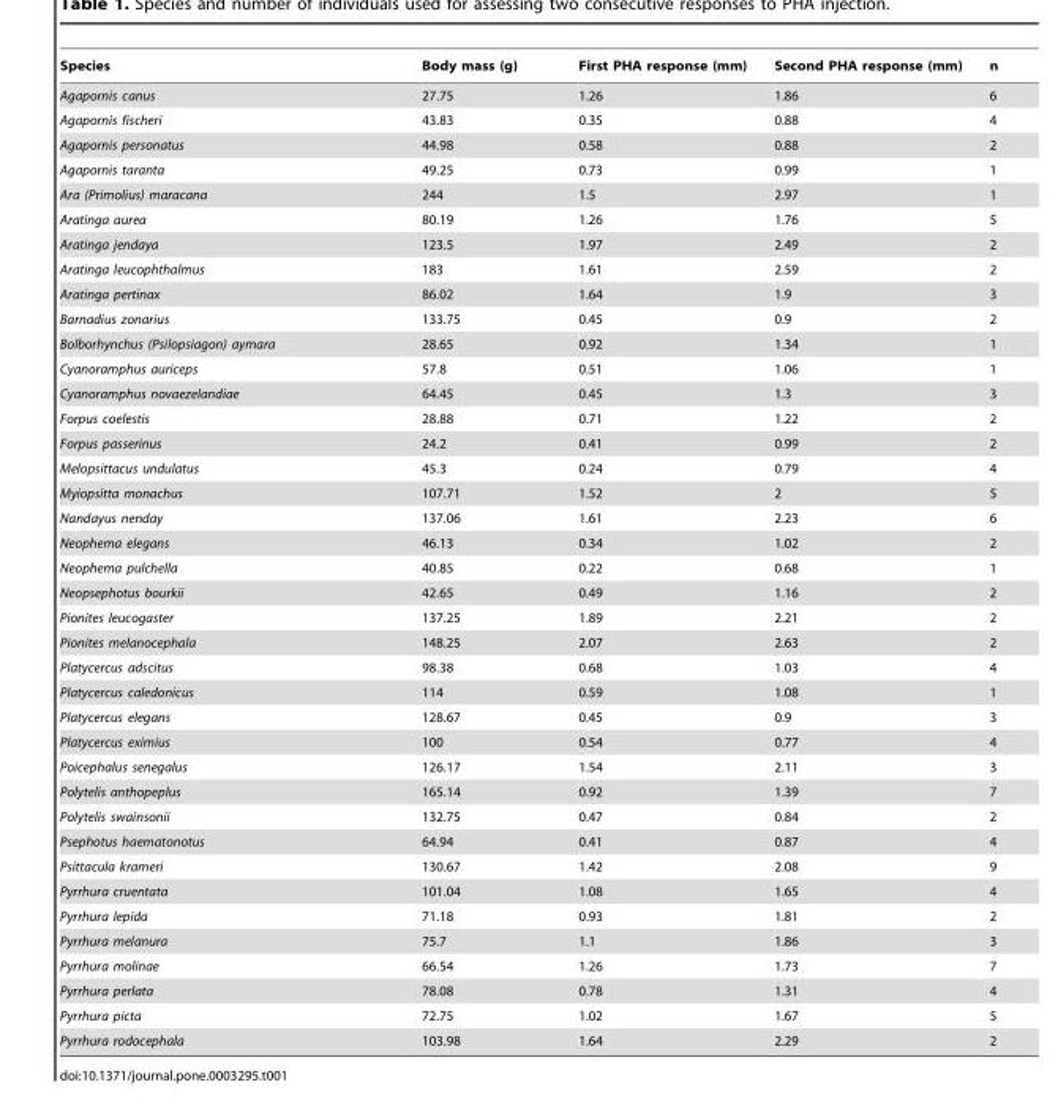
<table><thead><tr><td>Species</td><td>Body mass (g)</td><td>First PHA response (mm)</td><td>Second PHA response (mm)</td><td>n</td></tr></thead><tbody><tr><td>Agapornis canus</td><td>27.75</td><td>1.26</td><td>1.86</td><td>6</td></tr><tr><td>Agapornis fischeri</td><td>43.83</td><td>0.35</td><td>0.88</td><td>4</td></tr><tr><td>Agapornis personatus</td><td>44.98</td><td>0.58</td><td>0.88</td><td>2</td></tr><tr><td>Agapornis taranta</td><td>49.25</td><td>0.73</td><td>0.99</td><td>1</td></tr><tr><td>Ara (Primolius) maracana</td><td>244</td><td>1.5</td><td>2.97</td><td>1</td></tr><tr><td>Aratinga aurea</td><td>80.19</td><td>1.26</td><td>1.76</td><td>5</td></tr><tr><td>Aratinga jendaya</td><td>123.5</td><td>1.97</td><td>2.49</td><td>2</td></tr><tr><td>Aratinga leucophthalmus</td><td>183</td><td>1.61</td><td>2.59</td><td>2</td></tr><tr><td>Aratinga pertinax</td><td>86.02</td><td>1.64</td><td>1.9</td><td>3</td></tr><tr><td>Barnadius zonarius</td><td>133.75</td><td>0.45</td><td>0.9</td><td>2</td></tr><tr><td>Bolborhynchus (Psilopsiagon) aymara</td><td>28.65</td><td>0.92</td><td>1.34</td><td>1</td></tr><tr><td>Cyanoramphus auriceps</td><td>57.8</td><td>0.51</td><td>1.06</td><td>1</td></tr><tr><td>Cyanoramphus novaezelandiae</td><td>64.45</td><td>0.45</td><td>1.3</td><td>3</td></tr><tr><td>Forpus coelestis</td><td>28.88</td><td>0.71</td><td>1.22</td><td>2</td></tr><tr><td>Forpus passerinus</td><td>24.2</td><td>0.41</td><td>0.99</td><td>2</td></tr><tr><td>Melopsittacus undulatus</td><td>45.3</td><td>0.24</td><td>0.79</td><td>4</td></tr><tr><td>Myiopsitta monachus</td><td>107.71</td><td>1.52</td><td>2</td><td>5</td></tr><tr><td>Nandayus nenday</td><td>137.06</td><td>1.61</td><td>2.23</td><td>6</td></tr><tr><td>Neophema elegans</td><td>46.13</td><td>0.34</td><td>1.02</td><td>2</td></tr><tr><td>Neophema pulchella</td><td>40.85</td><td>0.22</td><td>0.68</td><td>1</td></tr><tr><td>Neopsephotus bourkii</td><td>42.65</td><td>0.49</td><td>1.16</td><td>2</td></tr><tr><td>Pionites leucogaster</td><td>137.25</td><td>1.89</td><td>2.21</td><td>2</td></tr><tr><td>Pionites melanocephala</td><td>148.25</td><td>2.07</td><td>2.63</td><td>2</td></tr><tr><td>Platycercus adscitus</td><td>98.38</td><td>0.68</td><td>1.03</td><td>4</td></tr><tr><td>Platycercus caledonicus</td><td>114</td><td>0.59</td><td>1.08</td><td>1</td></tr><tr><td>Platycercus elegans</td><td>128.67</td><td>0.45</td><td>0.9</td><td>3</td></tr><tr><td>Platycercus eximius</td><td>100</td><td>0.54</td><td>0.77</td><td>4</td></tr><tr><td>Poicephalus senegalus</td><td>126.17</td><td>1.54</td><td>2.11</td><td>3</td></tr><tr><td>Polytelis anthopeplus</td><td>165.14</td><td>0.92</td><td>1.39</td><td>7</td></tr><tr><td>Polytelis swainsonii</td><td>132.75</td><td>0.47</td><td>0.84</td><td>2</td></tr><tr><td>Psephotus haematonotus</td><td>64.94</td><td>0.41</td><td>0.87</td><td>4</td></tr><tr><td>Psittacula krameri</td><td>130.67</td><td>1.42</td><td>2.08</td><td>9</td></tr><tr><td>Pyrrhura cruentata</td><td>101.04</td><td>1.08</td><td>1.65</td><td>4</td></tr><tr><td>Pyrrhura lepida</td><td>71.18</td><td>0.93</td><td>1.81</td><td>2</td></tr><tr><td>Pyrrhura melanura</td><td>75.7</td><td>1.1</td><td>1.86</td><td>3</td></tr><tr><td>Pyrrhura molinae</td><td>66.54</td><td>1.26</td><td>1.73</td><td>7</td></tr><tr><td>Pyrrhura perlata</td><td>78.08</td><td>0.78</td><td>1.31</td><td>4</td></tr><tr><td>Pyrrhura picta</td><td>72.75</td><td>1.02</td><td>1.67</td><td>5</td></tr><tr><td>Pyrrhura rodocephala</td><td>103.98</td><td>1.64</td><td>2.29</td><td>2</td></tr></tbody></table>